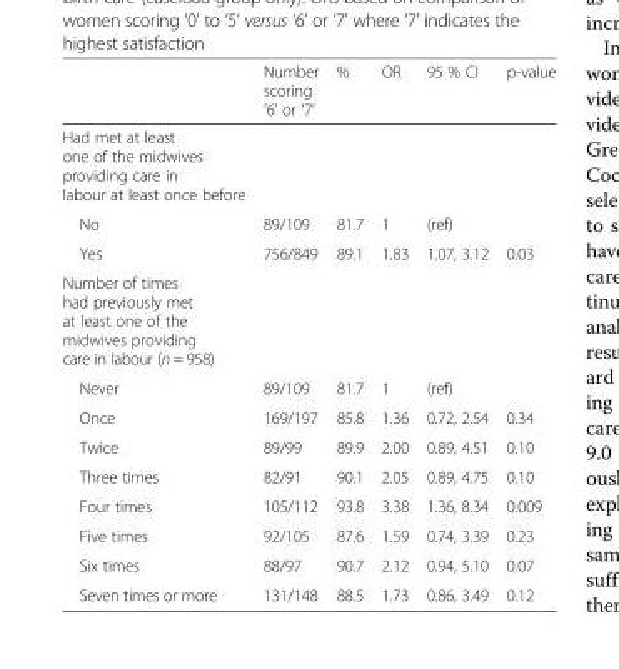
<table><thead><tr><td></td><td>Number scoring ‘6’ or ‘7’</td><td>%</td><td>OR</td><td>95 % CI</td><td>p-value</td></tr></thead><tbody><tr><td colspan="6">Had met at least one of the midwives providing care in labour at least once before</td></tr><tr><td>No</td><td>89/109</td><td>81.7</td><td>1</td><td>(ref)</td><td></td></tr><tr><td>Yes</td><td>756/849</td><td>89.1</td><td>1.83</td><td>1.07, 3.12</td><td>0.03</td></tr><tr><td colspan="6">Number of times had previously met at least one of the midwives providing care in labour (n = 958)</td></tr><tr><td>Never</td><td>89/109</td><td>81.7</td><td>1</td><td>(ref)</td><td></td></tr><tr><td>Once</td><td>169/197</td><td>85.8</td><td>1.36</td><td>0.72, 2.54</td><td>0.34</td></tr><tr><td>Twice</td><td>89/99</td><td>89.9</td><td>2.00</td><td>0.89, 4.51</td><td>0.10</td></tr><tr><td>Three times</td><td>82/91</td><td>90.1</td><td>2.05</td><td>0.89, 4.75</td><td>0.10</td></tr><tr><td>Four times</td><td>105/112</td><td>93.8</td><td>3.38</td><td>1.36, 8.34</td><td>0.009</td></tr><tr><td>Five times</td><td>92/105</td><td>87.6</td><td>1.59</td><td>0.74, 3.39</td><td>0.23</td></tr><tr><td>Six times</td><td>88/97</td><td>90.7</td><td>2.12</td><td>0.94, 5.10</td><td>0.07</td></tr><tr><td>Seven times or more</td><td>131/148</td><td>88.5</td><td>1.73</td><td>0.86, 3.49</td><td>0.12</td></tr></tbody></table>